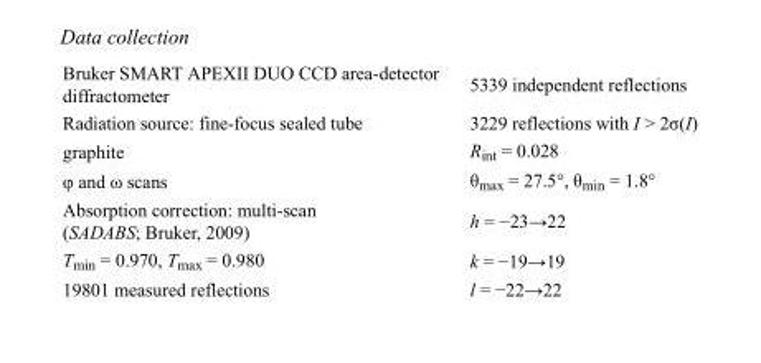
<table><tbody><tr><td>Bruker SMART APEXII DUO CCD area-detector diffractometer</td><td>5339 independent reflections</td></tr><tr><td>Radiation source: fine-focus sealed tube</td><td>3229 reflections with I &gt; 2σ(I)</td></tr><tr><td>graphite</td><td>R<sub>int</sub> = 0.028</td></tr><tr><td>φ and ω scans</td><td>θ<sub>max</sub> = 27.5°, θ<sub>min</sub> = 1.8°</td></tr><tr><td>Absorption correction: multi-scan (SADABS; Bruker, 2009)</td><td>h = −23→22</td></tr><tr><td>T<sub>min</sub> = 0.970, T<sub>max</sub> = 0.980</td><td>k = −19→19</td></tr><tr><td>19801 measured reflections</td><td>l = −22→22</td></tr></tbody></table>